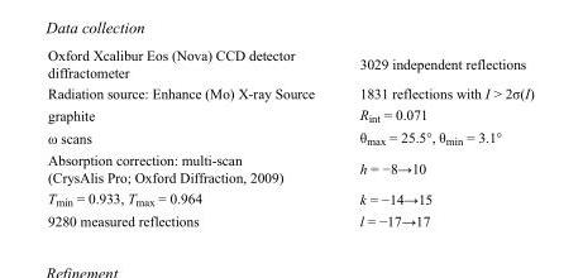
<table><tbody><tr><td>Oxford Xcalibur Eos (Nova) CCD detector diffractometer</td><td>3029 independent reflections</td></tr><tr><td>Radiation source: Enhance (Mo) X-ray Source</td><td>1831 reflections with I &gt; 2σ(I)</td></tr><tr><td>graphite</td><td>R<sub>int</sub> = 0.071</td></tr><tr><td>ω scans</td><td>θ<sub>max</sub> = 25.5°, θ<sub>min</sub> = 3.1°</td></tr><tr><td>Absorption correction: multi-scan (CrysAlis Pro; Oxford Diffraction, 2009)</td><td>h = −8→10</td></tr><tr><td>T<sub>min</sub> = 0.933, T<sub>max</sub> = 0.964</td><td>k = −14→15</td></tr><tr><td>9280 measured reflections</td><td>l = −17→17</td></tr></tbody></table>